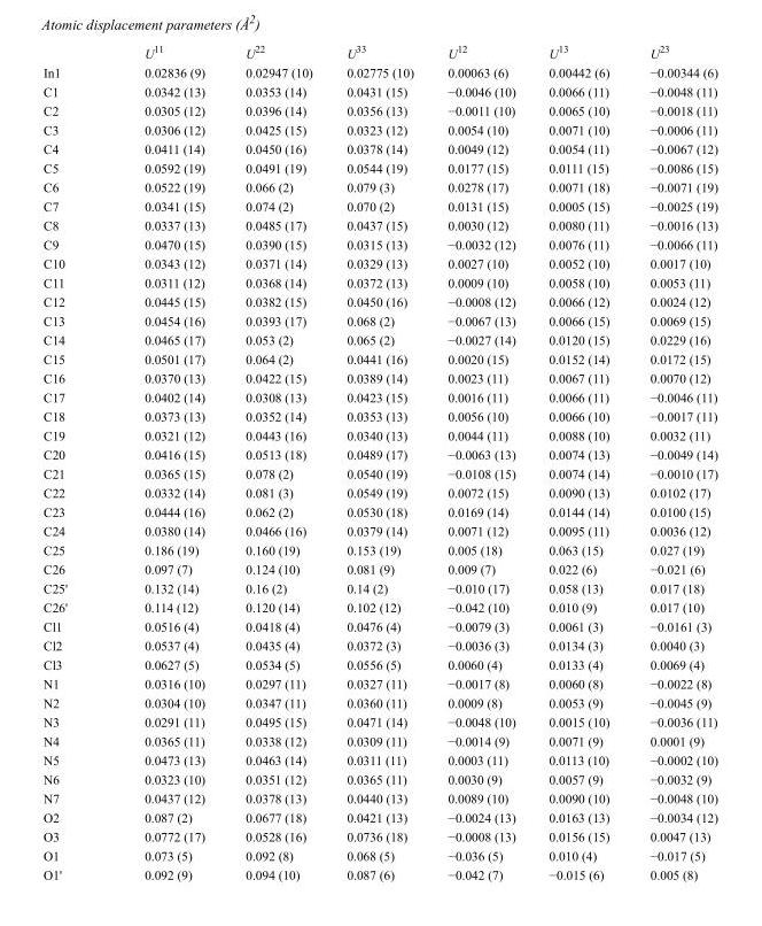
<table><thead><tr><td></td><td>U<sup>11</sup></td><td>U<sup>22</sup></td><td>U<sup>33</sup></td><td>U<sup>12</sup></td><td>U<sup>13</sup></td><td>U<sup>23</sup></td></tr></thead><tbody><tr><td>In1</td><td>0.02836 (9)</td><td>0.02947 (10)</td><td>0.02775 (10)</td><td>0.00063 (6)</td><td>0.00442 (6)</td><td>−0.00344 (6)</td></tr><tr><td>C1</td><td>0.0342 (13)</td><td>0.0353 (14)</td><td>0.0431 (15)</td><td>−0.0046 (10)</td><td>0.0066 (11)</td><td>−0.0048 (11)</td></tr><tr><td>C2</td><td>0.0305 (12)</td><td>0.0396 (14)</td><td>0.0356 (13)</td><td>−0.0011 (10)</td><td>0.0065 (10)</td><td>−0.0018 (11)</td></tr><tr><td>C3</td><td>0.0306 (12)</td><td>0.0425 (15)</td><td>0.0323 (12)</td><td>0.0054 (10)</td><td>0.0071 (10)</td><td>−0.0006 (11)</td></tr><tr><td>C4</td><td>0.0411 (14)</td><td>0.0450 (16)</td><td>0.0378 (14)</td><td>0.0049 (12)</td><td>0.0054 (11)</td><td>−0.0067 (12)</td></tr><tr><td>C5</td><td>0.0592 (19)</td><td>0.0491 (19)</td><td>0.0544 (19)</td><td>0.0177 (15)</td><td>0.0111 (15)</td><td>−0.0086 (15)</td></tr><tr><td>C6</td><td>0.0522 (19)</td><td>0.066 (2)</td><td>0.079 (3)</td><td>0.0278 (17)</td><td>0.0071 (18)</td><td>−0.0071 (19)</td></tr><tr><td>C7</td><td>0.0341 (15)</td><td>0.074 (2)</td><td>0.070 (2)</td><td>0.0131 (15)</td><td>0.0005 (15)</td><td>−0.0025 (19)</td></tr><tr><td>C8</td><td>0.0337 (13)</td><td>0.0485 (17)</td><td>0.0437 (15)</td><td>0.0030 (12)</td><td>0.0080 (11)</td><td>−0.0016 (13)</td></tr><tr><td>C9</td><td>0.0470 (15)</td><td>0.0390 (15)</td><td>0.0315 (13)</td><td>−0.0032 (12)</td><td>0.0076 (11)</td><td>−0.0066 (11)</td></tr><tr><td>C10</td><td>0.0343 (12)</td><td>0.0371 (14)</td><td>0.0329 (13)</td><td>0.0027 (10)</td><td>0.0052 (10)</td><td>0.0017 (10)</td></tr><tr><td>C11</td><td>0.0311 (12)</td><td>0.0368 (14)</td><td>0.0372 (13)</td><td>0.0009 (10)</td><td>0.0058 (10)</td><td>0.0053 (11)</td></tr><tr><td>C12</td><td>0.0445 (15)</td><td>0.0382 (15)</td><td>0.0450 (16)</td><td>−0.0008 (12)</td><td>0.0066 (12)</td><td>0.0024 (12)</td></tr><tr><td>C13</td><td>0.0454 (16)</td><td>0.0393 (17)</td><td>0.068 (2)</td><td>−0.0067 (13)</td><td>0.0066 (15)</td><td>0.0069 (15)</td></tr><tr><td>C14</td><td>0.0465 (17)</td><td>0.053 (2)</td><td>0.065 (2)</td><td>−0.0027 (14)</td><td>0.0120 (15)</td><td>0.0229 (16)</td></tr><tr><td>C15</td><td>0.0501 (17)</td><td>0.064 (2)</td><td>0.0441 (16)</td><td>0.0020 (15)</td><td>0.0152 (14)</td><td>0.0172 (15)</td></tr><tr><td>C16</td><td>0.0370 (13)</td><td>0.0422 (15)</td><td>0.0389 (14)</td><td>0.0023 (11)</td><td>0.0067 (11)</td><td>0.0070 (12)</td></tr><tr><td>C17</td><td>0.0402 (14)</td><td>0.0308 (13)</td><td>0.0423 (15)</td><td>0.0016 (11)</td><td>0.0066 (11)</td><td>−0.0046 (11)</td></tr><tr><td>C18</td><td>0.0373 (13)</td><td>0.0352 (14)</td><td>0.0353 (13)</td><td>0.0056 (10)</td><td>0.0066 (10)</td><td>−0.0017 (11)</td></tr><tr><td>C19</td><td>0.0321 (12)</td><td>0.0443 (16)</td><td>0.0340 (13)</td><td>0.0044 (11)</td><td>0.0088 (10)</td><td>0.0032 (11)</td></tr><tr><td>C20</td><td>0.0416 (15)</td><td>0.0513 (18)</td><td>0.0489 (17)</td><td>−0.0063 (13)</td><td>0.0074 (13)</td><td>−0.0049 (14)</td></tr><tr><td>C21</td><td>0.0365 (15)</td><td>0.078 (2)</td><td>0.0540 (19)</td><td>−0.0108 (15)</td><td>0.0074 (14)</td><td>−0.0010 (17)</td></tr><tr><td>C22</td><td>0.0332 (14)</td><td>0.081 (3)</td><td>0.0549 (19)</td><td>0.0072 (15)</td><td>0.0090 (13)</td><td>0.0102 (17)</td></tr><tr><td>C23</td><td>0.0444 (16)</td><td>0.062 (2)</td><td>0.0530 (18)</td><td>0.0169 (14)</td><td>0.0144 (14)</td><td>0.0100 (15)</td></tr><tr><td>C24</td><td>0.0380 (14)</td><td>0.0466 (16)</td><td>0.0379 (14)</td><td>0.0071 (12)</td><td>0.0095 (11)</td><td>0.0036 (12)</td></tr><tr><td>C25</td><td>0.186 (19)</td><td>0.160 (19)</td><td>0.153 (19)</td><td>0.005 (18)</td><td>0.063 (15)</td><td>0.027 (19)</td></tr><tr><td>C26</td><td>0.097 (7)</td><td>0.124 (10)</td><td>0.081 (9)</td><td>0.009 (7)</td><td>0.022 (6)</td><td>−0.021 (6)</td></tr><tr><td>C25&#x27;</td><td>0.132 (14)</td><td>0.16 (2)</td><td>0.14 (2)</td><td>−0.010 (17)</td><td>0.058 (13)</td><td>0.017 (18)</td></tr><tr><td>C26&#x27;</td><td>0.114 (12)</td><td>0.120 (14)</td><td>0.102 (12)</td><td>−0.042 (10)</td><td>0.010 (9)</td><td>0.017 (10)</td></tr><tr><td>Cl1</td><td>0.0516 (4)</td><td>0.0418 (4)</td><td>0.0476 (4)</td><td>−0.0079 (3)</td><td>0.0061 (3)</td><td>−0.0161 (3)</td></tr><tr><td>Cl2</td><td>0.0537 (4)</td><td>0.0435 (4)</td><td>0.0372 (3)</td><td>−0.0036 (3)</td><td>0.0134 (3)</td><td>0.0040 (3)</td></tr><tr><td>Cl3</td><td>0.0627 (5)</td><td>0.0534 (5)</td><td>0.0556 (5)</td><td>0.0060 (4)</td><td>0.0133 (4)</td><td>0.0069 (4)</td></tr><tr><td>N1</td><td>0.0316 (10)</td><td>0.0297 (11)</td><td>0.0327 (11)</td><td>−0.0017 (8)</td><td>0.0060 (8)</td><td>−0.0022 (8)</td></tr><tr><td>N2</td><td>0.0304 (10)</td><td>0.0347 (11)</td><td>0.0360 (11)</td><td>0.0009 (8)</td><td>0.0053 (9)</td><td>−0.0045 (9)</td></tr><tr><td>N3</td><td>0.0291 (11)</td><td>0.0495 (15)</td><td>0.0471 (14)</td><td>−0.0048 (10)</td><td>0.0015 (10)</td><td>−0.0036 (11)</td></tr><tr><td>N4</td><td>0.0365 (11)</td><td>0.0338 (12)</td><td>0.0309 (11)</td><td>−0.0014 (9)</td><td>0.0071 (9)</td><td>0.0001 (9)</td></tr><tr><td>N5</td><td>0.0473 (13)</td><td>0.0463 (14)</td><td>0.0311 (11)</td><td>0.0003 (11)</td><td>0.0113 (10)</td><td>−0.0002 (10)</td></tr><tr><td>N6</td><td>0.0323 (10)</td><td>0.0351 (12)</td><td>0.0365 (11)</td><td>0.0030 (9)</td><td>0.0057 (9)</td><td>−0.0032 (9)</td></tr><tr><td>N7</td><td>0.0437 (12)</td><td>0.0378 (13)</td><td>0.0440 (13)</td><td>0.0089 (10)</td><td>0.0090 (10)</td><td>−0.0048 (10)</td></tr><tr><td>O2</td><td>0.087 (2)</td><td>0.0677 (18)</td><td>0.0421 (13)</td><td>−0.0024 (13)</td><td>0.0163 (13)</td><td>−0.0034 (12)</td></tr><tr><td>O3</td><td>0.0772 (17)</td><td>0.0528 (16)</td><td>0.0736 (18)</td><td>−0.0008 (13)</td><td>0.0156 (15)</td><td>0.0047 (13)</td></tr><tr><td>O1</td><td>0.073 (5)</td><td>0.092 (8)</td><td>0.068 (5)</td><td>−0.036 (5)</td><td>0.010 (4)</td><td>−0.017 (5)</td></tr><tr><td>O1&#x27;</td><td>0.092 (9)</td><td>0.094 (10)</td><td>0.087 (6)</td><td>−0.042 (7)</td><td>−0.015 (6)</td><td>0.005 (8)</td></tr></tbody></table>